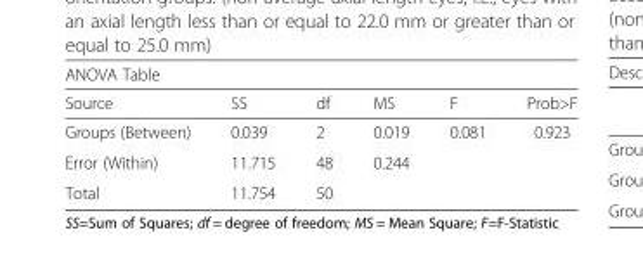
<table><thead><tr><td colspan="6">ANOVA Table</td></tr><tr><td>Source</td><td>SS</td><td>df</td><td>MS</td><td>F</td><td>Prob&gt;F</td></tr></thead><tbody><tr><td>Groups (Between)</td><td>0.039</td><td>2</td><td>0.019</td><td>0.081</td><td>0.923</td></tr><tr><td>Error (Within)</td><td>11.715</td><td>48</td><td>0.244</td><td></td><td></td></tr><tr><td>Total</td><td>11.754</td><td>50</td><td></td><td></td><td></td></tr></tbody></table>